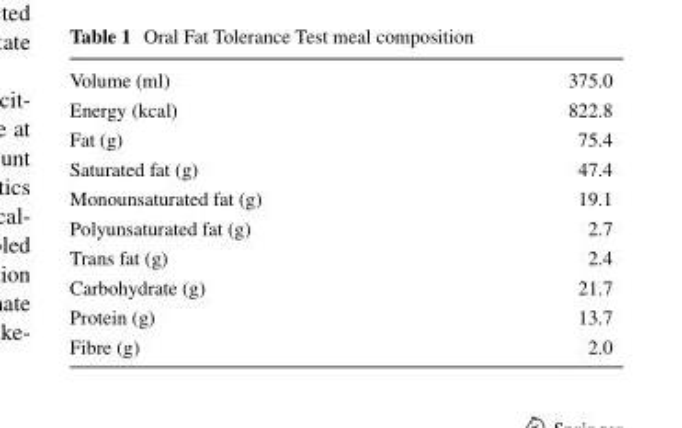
<table><tbody><tr><td>Volume (ml)</td><td>375.0</td></tr><tr><td>Energy (kcal)</td><td>822.8</td></tr><tr><td>Fat (g)</td><td>75.4</td></tr><tr><td>Saturated fat (g)</td><td>47.4</td></tr><tr><td>Monounsaturated fat (g)</td><td>19.1</td></tr><tr><td>Polyunsaturated fat (g)</td><td>2.7</td></tr><tr><td>Trans fat (g)</td><td>2.4</td></tr><tr><td>Carbohydrate (g)</td><td>21.7</td></tr><tr><td>Protein (g)</td><td>13.7</td></tr><tr><td>Fibre (g)</td><td>2.0</td></tr></tbody></table>